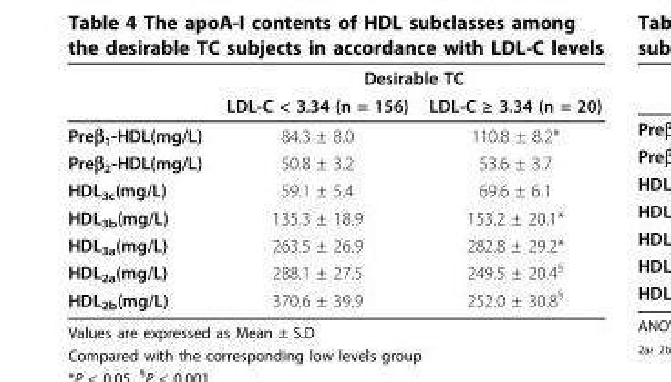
<table><thead><tr><td rowspan="2"></td><td colspan="2">Desirable TC</td></tr><tr><td>LDL-C &lt; 3.34 (n = 156)</td><td>LDL-C ≥ 3.34 (n = 20)</td></tr></thead><tbody><tr><td>Preβ<sub>1</sub>-HDL(mg/L)</td><td>84.3 ± 8.0</td><td>110.8 ± 8.2*</td></tr><tr><td>Preβ<sub>2</sub>-HDL(mg/L)</td><td>50.8 ± 3.2</td><td>53.6 ± 3.7</td></tr><tr><td>HDL<sub>3c</sub>(mg/L)</td><td>59.1 ± 5.4</td><td>69.6 ± 6.1</td></tr><tr><td>HDL<sub>3b</sub>(mg/L)</td><td>135.3 ± 18.9</td><td>153.2 ± 20.1*</td></tr><tr><td>HDL<sub>3a</sub>(mg/L)</td><td>263.5 ± 26.9</td><td>282.8 ± 29.2*</td></tr><tr><td>HDL<sub>2a</sub>(mg/L)</td><td>288.1 ± 27.5</td><td>249.5 ± 20.4<sup>§</sup></td></tr><tr><td>HDL<sub>2b</sub>(mg/L)</td><td>370.6 ± 39.9</td><td>252.0 ± 30.8<sup>§</sup></td></tr></tbody></table>